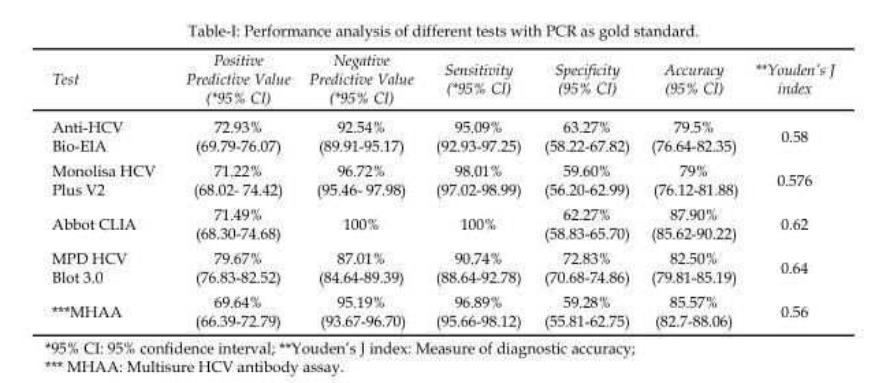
<table><thead><tr><td>Test</td><td>Positive Predictive Value (*95% CI)</td><td>Negative Predictive Value (*95% CI)</td><td>Sensitivity (*95% CI)</td><td>Specificity (95% CI)</td><td>Accuracy (95% CI)</td><td>**Youden’s J index</td></tr></thead><tbody><tr><td>Anti-HCV Bio-EIA</td><td>72.93% (69.79-76.07)</td><td>92.54% (89.91-95.17)</td><td>95.09% (92.93-97.25)</td><td>63.27% (58.22-67.82)</td><td>79.5% (76.64-82.35)</td><td>0.58</td></tr><tr><td>Monolisa HCV Plus V2</td><td>71.22% (68.02- 74.42)</td><td>96.72% (95.46- 97.98)</td><td>98.01% (97.02-98.99)</td><td>59.60% (56.20-62.99)</td><td>79% (76.12-81.88)</td><td>0.576</td></tr><tr><td>Abbot CLIA</td><td>71.49% (68.30-74.68)</td><td>100%</td><td>100%</td><td>62.27% (58.83-65.70)</td><td>87.90% (85.62-90.22)</td><td>0.62</td></tr><tr><td>MPD HCV Blot 3.0</td><td>79.67% (76.83-82.52)</td><td>87.01% (84.64-89.39)</td><td>90.74% (88.64-92.78)</td><td>72.83% (70.68-74.86)</td><td>82.50% (79.81-85.19)</td><td>0.64</td></tr><tr><td>***MHAA</td><td>69.64% (66.39-72.79)</td><td>95.19% (93.67-96.70)</td><td>96.89% (95.66-98.12)</td><td>59.28% (55.81-62.75)</td><td>85.57% (82.7-88.06)</td><td>0.56</td></tr></tbody></table>